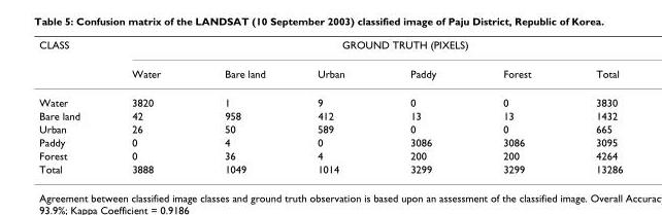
<table><thead><tr><td rowspan="2">CLASS</td><td colspan="6">GROUND TRUTH (PIXELS)</td></tr><tr><td>Water</td><td>Bare land</td><td>Urban</td><td>Paddy</td><td>Forest</td><td>Total</td></tr></thead><tbody><tr><td>Water</td><td>3820</td><td>1</td><td>9</td><td>0</td><td>0</td><td>3830</td></tr><tr><td>Bare land</td><td>42</td><td>958</td><td>412</td><td>13</td><td>13</td><td>1432</td></tr><tr><td>Urban</td><td>26</td><td>50</td><td>589</td><td>0</td><td>0</td><td>665</td></tr><tr><td>Paddy</td><td>0</td><td>4</td><td>0</td><td>3086</td><td>3086</td><td>3095</td></tr><tr><td>Forest</td><td>0</td><td>36</td><td>4</td><td>200</td><td>200</td><td>4264</td></tr><tr><td>Total</td><td>3888</td><td>1049</td><td>1014</td><td>3299</td><td>3299</td><td>13286</td></tr></tbody></table>